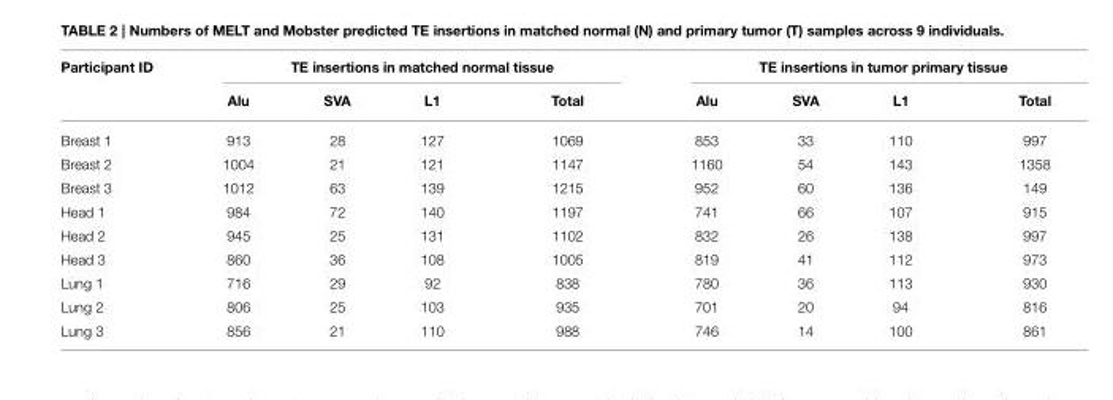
<table><thead><tr><td rowspan="2">Participant ID</td><td colspan="4">TE insertions in matched normal tissue</td><td colspan="4">TE insertions in tumor primary tissue</td></tr><tr><td>Alu</td><td>SVA</td><td>L1</td><td>Total</td><td>Alu</td><td>SVA</td><td>L1</td><td>Total</td></tr></thead><tbody><tr><td>Breast 1</td><td>913</td><td>28</td><td>127</td><td>1069</td><td>853</td><td>33</td><td>110</td><td>997</td></tr><tr><td>Breast 2</td><td>1004</td><td>21</td><td>121</td><td>1147</td><td>1160</td><td>54</td><td>143</td><td>1358</td></tr><tr><td>Breast 3</td><td>1012</td><td>63</td><td>139</td><td>1215</td><td>952</td><td>60</td><td>136</td><td>149</td></tr><tr><td>Head 1</td><td>984</td><td>72</td><td>140</td><td>1197</td><td>741</td><td>66</td><td>107</td><td>915</td></tr><tr><td>Head 2</td><td>945</td><td>25</td><td>131</td><td>1102</td><td>832</td><td>26</td><td>138</td><td>997</td></tr><tr><td>Head 3</td><td>860</td><td>36</td><td>108</td><td>1005</td><td>819</td><td>41</td><td>112</td><td>973</td></tr><tr><td>Lung 1</td><td>716</td><td>29</td><td>92</td><td>838</td><td>780</td><td>36</td><td>113</td><td>930</td></tr><tr><td>Lung 2</td><td>806</td><td>25</td><td>103</td><td>935</td><td>701</td><td>20</td><td>94</td><td>816</td></tr><tr><td>Lung 3</td><td>856</td><td>21</td><td>110</td><td>988</td><td>746</td><td>14</td><td>100</td><td>861</td></tr></tbody></table>